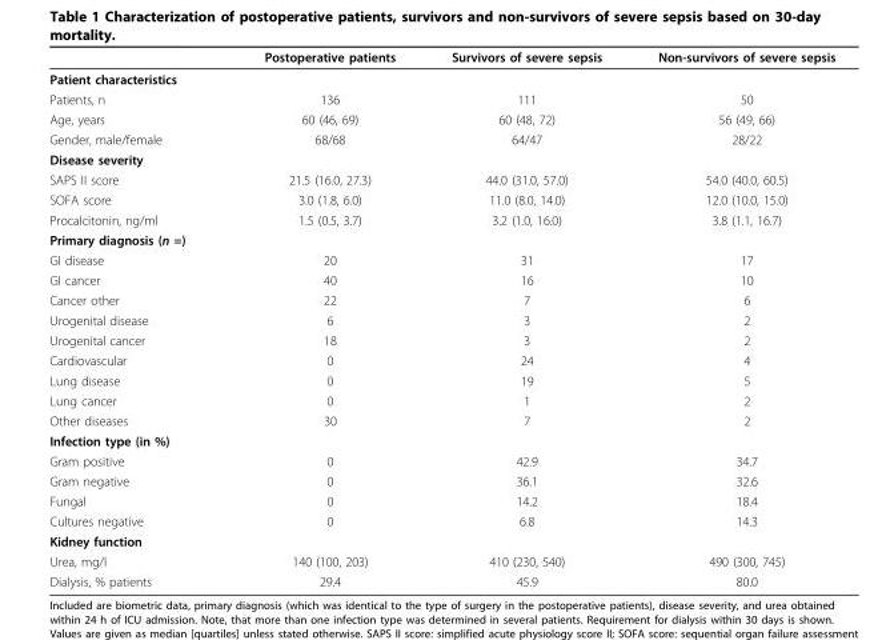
<table><thead><tr><td></td><td>Postoperative patients</td><td>Survivors of severe sepsis</td><td>Non-survivors of severe sepsis</td></tr></thead><tbody><tr><td colspan="4">Patient characteristics</td></tr><tr><td>Patients, n</td><td>136</td><td>111</td><td>50</td></tr><tr><td>Age, years</td><td>60 (46, 69)</td><td>60 (48, 72)</td><td>56 (49, 66)</td></tr><tr><td>Gender, male/female</td><td>68/68</td><td>64/47</td><td>28/22</td></tr><tr><td colspan="4">Disease severity</td></tr><tr><td>SAPS II score</td><td>21.5 (16.0, 27.3)</td><td>44.0 (31.0, 57.0)</td><td>54.0 (40.0, 60.5)</td></tr><tr><td>SOFA score</td><td>3.0 (1.8, 6.0)</td><td>11.0 (8.0, 14.0)</td><td>12.0 (10.0, 15.0)</td></tr><tr><td>Procalcitonin, ng/ml</td><td>1.5 (0.5, 3.7)</td><td>3.2 (1.0, 16.0)</td><td>3.8 (1.1, 16.7)</td></tr><tr><td colspan="4">Primary diagnosis (n =)</td></tr><tr><td>GI disease</td><td>20</td><td>31</td><td>17</td></tr><tr><td>GI cancer</td><td>40</td><td>16</td><td>10</td></tr><tr><td>Cancer other</td><td>22</td><td>7</td><td>6</td></tr><tr><td>Urogenital disease</td><td>6</td><td>3</td><td>2</td></tr><tr><td>Urogenital cancer</td><td>18</td><td>3</td><td>2</td></tr><tr><td>Cardiovascular</td><td>0</td><td>24</td><td>4</td></tr><tr><td>Lung disease</td><td>0</td><td>19</td><td>5</td></tr><tr><td>Lung cancer</td><td>0</td><td>1</td><td>2</td></tr><tr><td>Other diseases</td><td>30</td><td>7</td><td>2</td></tr><tr><td colspan="4">Infection type (in %)</td></tr><tr><td>Gram positive</td><td>0</td><td>42.9</td><td>34.7</td></tr><tr><td>Gram negative</td><td>0</td><td>36.1</td><td>32.6</td></tr><tr><td>Fungal</td><td>0</td><td>14.2</td><td>18.4</td></tr><tr><td>Cultures negative</td><td>0</td><td>6.8</td><td>14.3</td></tr><tr><td colspan="4">Kidney function</td></tr><tr><td>Urea, mg/l</td><td>140 (100, 203)</td><td>410 (230, 540)</td><td>490 (300, 745)</td></tr><tr><td>Dialysis, % patients</td><td>29.4</td><td>45.9</td><td>80.0</td></tr></tbody></table>